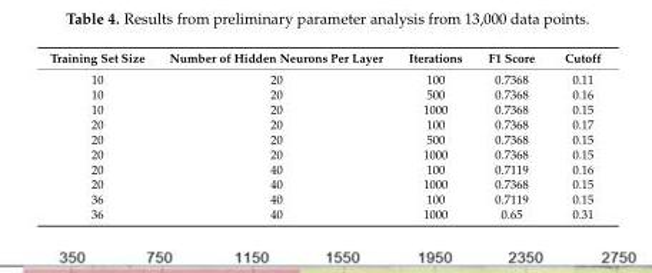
<table><thead><tr><td>Training Set Size</td><td>Number of Hidden Neurons Per Layer</td><td>Iterations</td><td>F1 Score</td><td>Cutoff</td></tr></thead><tbody><tr><td>10</td><td>20</td><td>100</td><td>0.7368</td><td>0.11</td></tr><tr><td>10</td><td>20</td><td>500</td><td>0.7368</td><td>0.16</td></tr><tr><td>10</td><td>20</td><td>1000</td><td>0.7368</td><td>0.15</td></tr><tr><td>20</td><td>20</td><td>100</td><td>0.7368</td><td>0.17</td></tr><tr><td>20</td><td>20</td><td>500</td><td>0.7368</td><td>0.15</td></tr><tr><td>20</td><td>20</td><td>1000</td><td>0.7368</td><td>0.15</td></tr><tr><td>20</td><td>40</td><td>100</td><td>0.7119</td><td>0.16</td></tr><tr><td>20</td><td>40</td><td>1000</td><td>0.7368</td><td>0.15</td></tr><tr><td>36</td><td>40</td><td>100</td><td>0.7119</td><td>0.15</td></tr><tr><td>36</td><td>40</td><td>1000</td><td>0.65</td><td>0.31</td></tr></tbody></table>